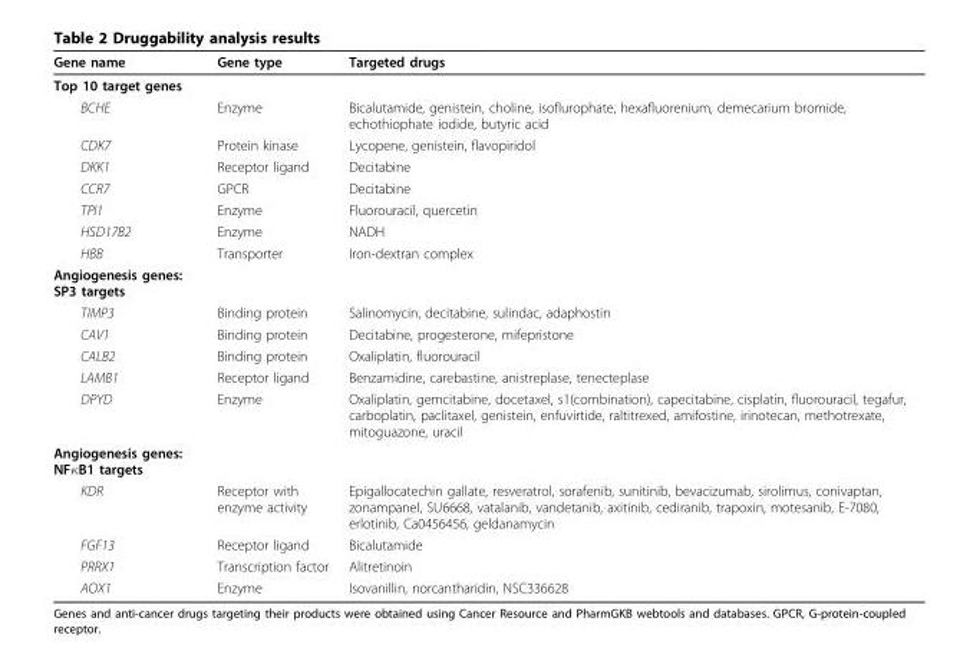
<table><thead><tr><td>Gene name</td><td>Gene type</td><td>Targeted drugs</td></tr></thead><tbody><tr><td colspan="3">Top 10 target genes</td></tr><tr><td>BCHE</td><td>Enzyme</td><td>Bicalutamide, genistein, choline, isoflurophate, hexafluorenium, demecarium bromide, echothiophate iodide, butyric acid</td></tr><tr><td>CDK7</td><td>Protein kinase</td><td>Lycopene, genistein, flavopiridol</td></tr><tr><td>DKK1</td><td>Receptor ligand</td><td>Decitabine</td></tr><tr><td>CCR7</td><td>GPCR</td><td>Decitabine</td></tr><tr><td>TPI1</td><td>Enzyme</td><td>Fluorouracil, quercetin</td></tr><tr><td>HSD17B2</td><td>Enzyme</td><td>NADH</td></tr><tr><td>HBB</td><td>Transporter</td><td>Iron-dextran complex</td></tr><tr><td colspan="3">Angiogenesis genes: SP3 targets</td></tr><tr><td>TIMP3</td><td>Binding protein</td><td>Salinomycin, decitabine, sulindac, adaphostin</td></tr><tr><td>CAV1</td><td>Binding protein</td><td>Decitabine, progesterone, mifepristone</td></tr><tr><td>CALB2</td><td>Binding protein</td><td>Oxaliplatin, fluorouracil</td></tr><tr><td>LAMB1</td><td>Receptor ligand</td><td>Benzamidine, carebastine, anistreplase, tenecteplase</td></tr><tr><td>DPYD</td><td>Enzyme</td><td>Oxaliplatin, gemcitabine, docetaxel, s1(combination), capecitabine, cisplatin, fluorouracil, tegafur, carboplatin, paclitaxel, genistein, enfuvirtide, raltitrexed, amifostine, irinotecan, methotrexate, mitoguazone, uracil</td></tr><tr><td colspan="3">Angiogenesis genes: NFκB1 targets</td></tr><tr><td>KDR</td><td>Receptor with enzyme activity</td><td>Epigallocatechin gallate, resveratrol, sorafenib, sunitinib, bevacizumab, sirolimus, conivaptan, zonampanel, SU6668, vatalanib, vandetanib, axitinib, cediranib, trapoxin, motesanib, E-7080, erlotinib, Ca0456456, geldanamycin</td></tr><tr><td>FGF13</td><td>Receptor ligand</td><td>Bicalutamide</td></tr><tr><td>PRRX1</td><td>Transcription factor</td><td>Alitretinoin</td></tr><tr><td>AOX1</td><td>Enzyme</td><td>Isovanillin, norcantharidin, NSC336628</td></tr></tbody></table>